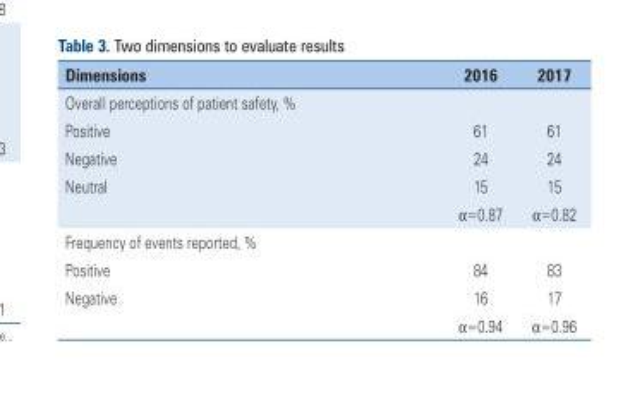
<table><thead><tr><td>Dimensions</td><td>2016</td><td>2017</td></tr></thead><tbody><tr><td colspan="3">Overall perceptions of patient safety, %</td></tr><tr><td>Positive</td><td>61</td><td>61</td></tr><tr><td>Negative</td><td>24</td><td>24</td></tr><tr><td rowspan="2">Neutral</td><td>15</td><td>15</td></tr><tr><td>α=0.87</td><td>α=0.82</td></tr><tr><td colspan="3">Frequency of events reported, %</td></tr><tr><td>Positive</td><td>84</td><td>83</td></tr><tr><td rowspan="2">Negative</td><td>16</td><td>17</td></tr><tr><td>α=0.94</td><td>α=0.96</td></tr></tbody></table>